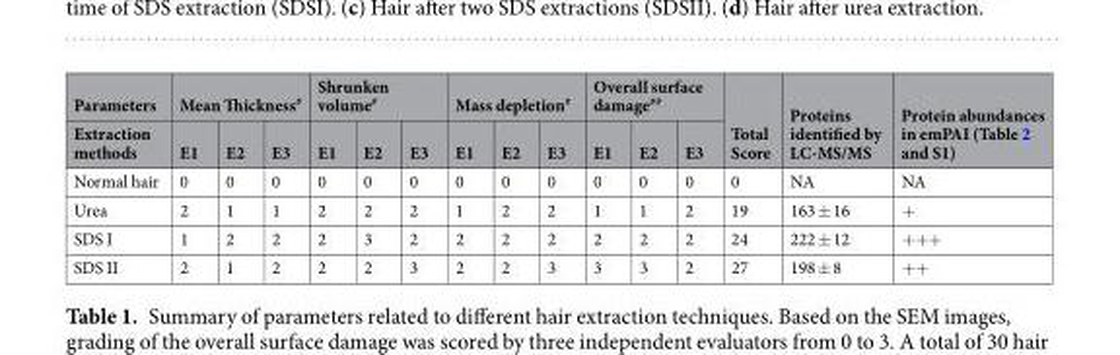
<table><thead><tr><td rowspan="2">Parameters Extraction methods</td><td colspan="3">Mean Thickness<sup>#</sup></td><td colspan="3">Shrunken volume<sup>#</sup></td><td colspan="3">Mass depletion<sup>#</sup></td><td colspan="3">Overall surface damage<sup>##</sup></td><td rowspan="2">Total Score</td><td rowspan="2">Proteins identified by LC-MS/MS</td><td rowspan="2">Protein abundances in emPAI (Table 2 and S1)</td></tr><tr><td>E1</td><td>E2</td><td>E3</td><td>E1</td><td>E2</td><td>E3</td><td>E1</td><td>E2</td><td>E3</td><td>E1</td><td>E2</td><td>E3</td></tr></thead><tbody><tr><td>Normal hair</td><td>0</td><td>0</td><td>0</td><td>0</td><td>0</td><td>0</td><td>0</td><td>0</td><td>0</td><td>0</td><td>0</td><td>0</td><td>0</td><td>NA</td><td>NA</td></tr><tr><td>Urea</td><td>2</td><td>1</td><td>1</td><td>2</td><td>2</td><td>2</td><td>1</td><td>2</td><td>2</td><td>1</td><td>1</td><td>2</td><td>19</td><td>163 ± 16</td><td>+</td></tr><tr><td>SDS I</td><td>1</td><td>2</td><td>2</td><td>2</td><td>3</td><td>2</td><td>2</td><td>2</td><td>2</td><td>2</td><td>2</td><td>2</td><td>24</td><td>222 ± 12</td><td>+++</td></tr><tr><td>SDS II</td><td>2</td><td>1</td><td>2</td><td>2</td><td>2</td><td>3</td><td>2</td><td>2</td><td>3</td><td>3</td><td>3</td><td>2</td><td>27</td><td>198 ± 8</td><td>++</td></tr></tbody></table>